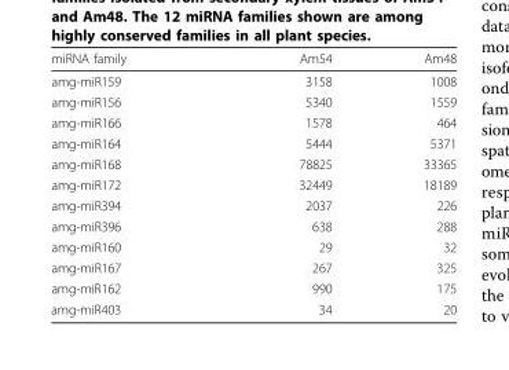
<table><thead><tr><td>miRNA family</td><td>Am54</td><td>Am48</td></tr></thead><tbody><tr><td>amg-miR159</td><td>3158</td><td>1008</td></tr><tr><td>amg-miR156</td><td>5340</td><td>1559</td></tr><tr><td>amg-miR166</td><td>1578</td><td>464</td></tr><tr><td>amg-miR164</td><td>5444</td><td>5371</td></tr><tr><td>amg-miR168</td><td>78825</td><td>33365</td></tr><tr><td>amg-miR172</td><td>32449</td><td>18189</td></tr><tr><td>amg-miR394</td><td>2037</td><td>226</td></tr><tr><td>amg-miR396</td><td>638</td><td>288</td></tr><tr><td>amg-miR160</td><td>29</td><td>32</td></tr><tr><td>amg-miR167</td><td>267</td><td>325</td></tr><tr><td>amg-miR162</td><td>990</td><td>175</td></tr><tr><td>amg-miR403</td><td>34</td><td>20</td></tr></tbody></table>